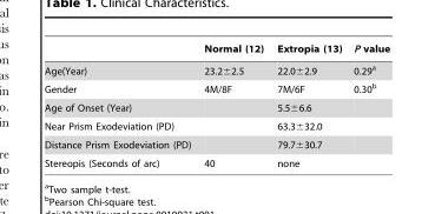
<table><thead><tr><td></td><td>Normal (12)</td><td>Extropia (13)</td><td>P value</td></tr></thead><tbody><tr><td>Age(Year)</td><td>23.2±2.5</td><td>22.0±2.9</td><td>0.29<sup>a</sup></td></tr><tr><td>Gender</td><td>4M/8F</td><td>7M/6F</td><td>0.30<sup>b</sup></td></tr><tr><td>Age of Onset (Year)</td><td></td><td>5.5±6.6</td><td></td></tr><tr><td>Near Prism Exodeviation (PD)</td><td></td><td>63.3±32.0</td><td></td></tr><tr><td>Distance Prism Exodeviation (PD)</td><td></td><td>79.7±30.7</td><td></td></tr><tr><td>Stereopis (Seconds of arc)</td><td>40</td><td>none</td><td></td></tr></tbody></table>